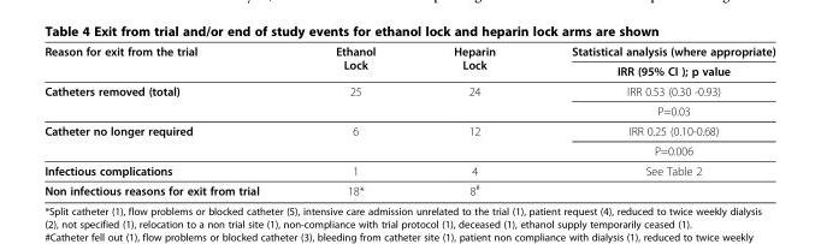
<table><thead><tr><td rowspan="2">Reason for exit from the trial</td><td rowspan="2">Ethanol Lock</td><td rowspan="2">Heparin Lock</td><td rowspan="2">Statistical analysis (where appropriate) IRR (95% CI ); p value</td></tr><tr></tr></thead><tbody><tr><td rowspan="2">Catheters removed (total)</td><td rowspan="2">25</td><td rowspan="2">24</td><td>IRR 0.53 (0.30 -0.93)</td></tr><tr><td>P=0.03</td></tr><tr><td rowspan="2">Catheter no longer required</td><td rowspan="2">6</td><td rowspan="2">12</td><td>IRR 0.25 (0.10-0.68)</td></tr><tr><td>P=0.006</td></tr><tr><td>Infectious complications</td><td>1</td><td>4</td><td>See Table 2</td></tr><tr><td>Non infectious reasons for exit from trial</td><td>18*</td><td>8<sup>#</sup></td><td></td></tr></tbody></table>